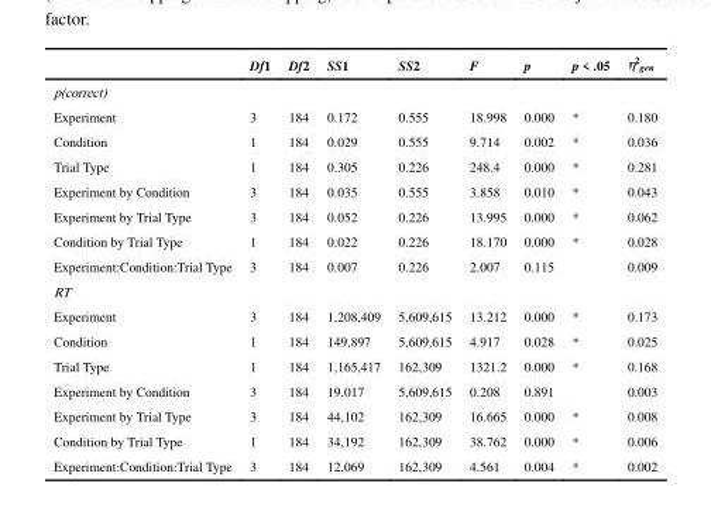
<table><thead><tr><td></td><td>Df1</td><td>Df2</td><td>SS1</td><td>SS2</td><td>F</td><td>p</td><td>p &lt; .05</td><td>η<sup>2</sup><sub>gen</sub></td></tr></thead><tbody><tr><td colspan="9">p(correct)</td></tr><tr><td>Experiment</td><td>3</td><td>184</td><td>0.172</td><td>0.555</td><td>18.998</td><td>0.000</td><td>*</td><td>0.180</td></tr><tr><td>Condition</td><td>1</td><td>184</td><td>0.029</td><td>0.555</td><td>9.714</td><td>0.002</td><td>*</td><td>0.036</td></tr><tr><td>Trial Type</td><td>1</td><td>184</td><td>0.305</td><td>0.226</td><td>248.4</td><td>0.000</td><td>*</td><td>0.281</td></tr><tr><td>Experiment by Condition</td><td>3</td><td>184</td><td>0.035</td><td>0.555</td><td>3.858</td><td>0.010</td><td>*</td><td>0.043</td></tr><tr><td>Experiment by Trial Type</td><td>3</td><td>184</td><td>0.052</td><td>0.226</td><td>13.995</td><td>0.000</td><td>*</td><td>0.062</td></tr><tr><td>Condition by Trial Type</td><td>1</td><td>184</td><td>0.022</td><td>0.226</td><td>18.170</td><td>0.000</td><td>*</td><td>0.028</td></tr><tr><td>Experiment:Condition:Trial Type</td><td>3</td><td>184</td><td>0.007</td><td>0.226</td><td>2.007</td><td>0.115</td><td></td><td>0.009</td></tr><tr><td colspan="9">RT</td></tr><tr><td>Experiment</td><td>3</td><td>184</td><td>1,208,409</td><td>5,609,615</td><td>13.212</td><td>0.000</td><td>*</td><td>0.173</td></tr><tr><td>Condition</td><td>1</td><td>184</td><td>149,897</td><td>5,609,615</td><td>4.917</td><td>0.028</td><td>*</td><td>0.025</td></tr><tr><td>Trial Type</td><td>1</td><td>184</td><td>1,165,417</td><td>162,309</td><td>1321.2</td><td>0.000</td><td>*</td><td>0.168</td></tr><tr><td>Experiment by Condition</td><td>3</td><td>184</td><td>19,017</td><td>5,609,615</td><td>0.208</td><td>0.891</td><td></td><td>0.003</td></tr><tr><td>Experiment by Trial Type</td><td>3</td><td>184</td><td>44,102</td><td>162,309</td><td>16.665</td><td>0.000</td><td>*</td><td>0.008</td></tr><tr><td>Condition by Trial Type</td><td>1</td><td>184</td><td>34,192</td><td>162,309</td><td>38.762</td><td>0.000</td><td>*</td><td>0.006</td></tr><tr><td>Experiment:Condition:Trial Type</td><td>3</td><td>184</td><td>12,069</td><td>162,309</td><td>4.561</td><td>0.004</td><td>*</td><td>0.002</td></tr></tbody></table>